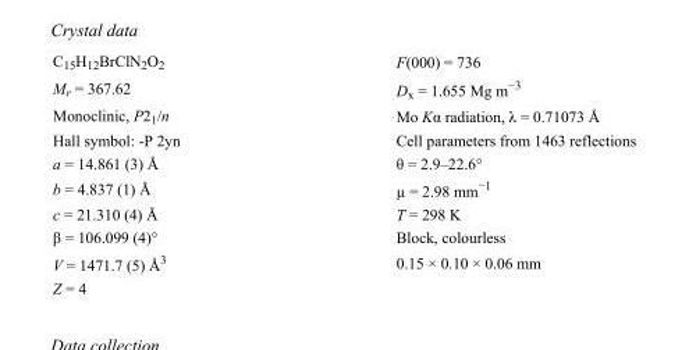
<table><tbody><tr><td>C<sub>15</sub>H<sub>12</sub>BrClN<sub>2</sub>O<sub>2</sub></td><td>F(000) = 736</td></tr><tr><td>M<sub>r</sub> = 367.62</td><td>D<sub>x</sub> = 1.655 Mg m<sup>−3</sup></td></tr><tr><td>Monoclinic, P2<sub>1</sub>/n</td><td>Mo Kα radiation, λ = 0.71073 Å</td></tr><tr><td>Hall symbol: -P 2yn</td><td>Cell parameters from 1463 reflections</td></tr><tr><td>a = 14.861 (3) Å</td><td>θ = 2.9–22.6°</td></tr><tr><td>b = 4.837 (1) Å</td><td>µ = 2.98 mm<sup>−1</sup></td></tr><tr><td>c = 21.310 (4) Å</td><td>T = 298 K</td></tr><tr><td>β = 106.099 (4)°</td><td>Block, colourless</td></tr><tr><td>V = 1471.7 (5) Å<sup>3</sup></td><td>0.15 × 0.10 × 0.06 mm</td></tr><tr><td>Z = 4</td><td></td></tr></tbody></table>